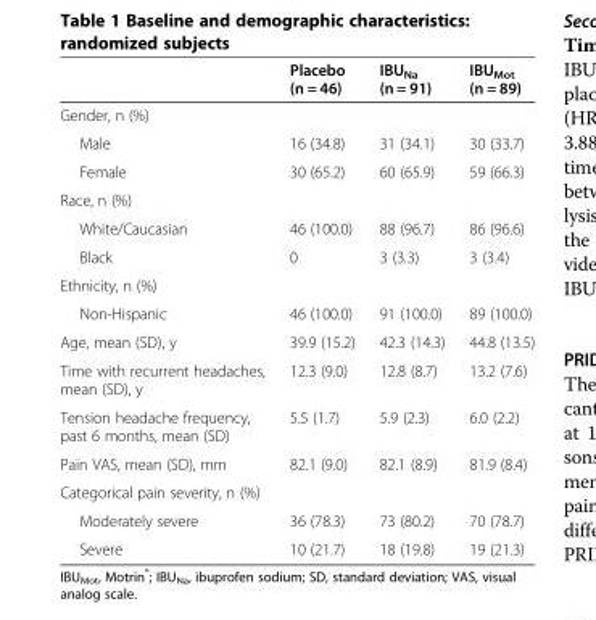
<table><thead><tr><td></td><td>Placebo (n = 46)</td><td>IBU<sub>Na</sub> (n = 91)</td><td>IBU<sub>Mot</sub> (n = 89)</td></tr></thead><tbody><tr><td colspan="4">Gender, n (%)</td></tr><tr><td>Male</td><td>16 (34.8)</td><td>31 (34.1)</td><td>30 (33.7)</td></tr><tr><td>Female</td><td>30 (65.2)</td><td>60 (65.9)</td><td>59 (66.3)</td></tr><tr><td colspan="4">Race, n (%)</td></tr><tr><td>White/Caucasian</td><td>46 (100.0)</td><td>88 (96.7)</td><td>86 (96.6)</td></tr><tr><td>Black</td><td>0</td><td>3 (3.3)</td><td>3 (3.4)</td></tr><tr><td colspan="4">Ethnicity, n (%)</td></tr><tr><td>Non-Hispanic</td><td>46 (100.0)</td><td>91 (100.0)</td><td>89 (100.0)</td></tr><tr><td>Age, mean (SD), y</td><td>39.9 (15.2)</td><td>42.3 (14.3)</td><td>44.8 (13.5)</td></tr><tr><td>Time with recurrent headaches, mean (SD), y</td><td>12.3 (9.0)</td><td>12.8 (8.7)</td><td>13.2 (7.6)</td></tr><tr><td>Tension headache frequency, past 6 months, mean (SD)</td><td>5.5 (1.7)</td><td>5.9 (2.3)</td><td>6.0 (2.2)</td></tr><tr><td>Pain VAS, mean (SD), mm</td><td>82.1 (9.0)</td><td>82.1 (8.9)</td><td>81.9 (8.4)</td></tr><tr><td colspan="4">Categorical pain severity, n (%)</td></tr><tr><td>Moderately severe</td><td>36 (78.3)</td><td>73 (80.2)</td><td>70 (78.7)</td></tr><tr><td>Severe</td><td>10 (21.7)</td><td>18 (19.8)</td><td>19 (21.3)</td></tr></tbody></table>